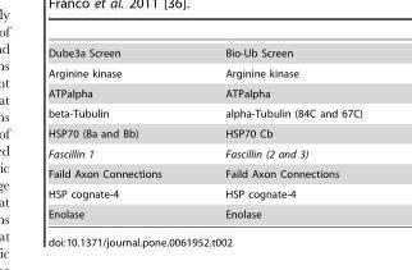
<table><tbody><tr><td>Dube3a Screen</td><td>Bio-Ub Screen</td></tr><tr><td>Arginine kinase</td><td>Arginine kinase</td></tr><tr><td>ATPalpha</td><td>ATPalpha</td></tr><tr><td>beta-Tubulin</td><td>alpha-Tubulin (84C and 67C)</td></tr><tr><td>HSP70 (Ba and Bb)</td><td>HSP70 Cb</td></tr><tr><td>Fascillin 1</td><td>Fascillin (2 and 3)</td></tr><tr><td>Faild Axon Connections</td><td>Faild Axon Connections</td></tr><tr><td>HSP cognate-4</td><td>HSP cognate-4</td></tr><tr><td>Enolase</td><td>Enolase</td></tr></tbody></table>